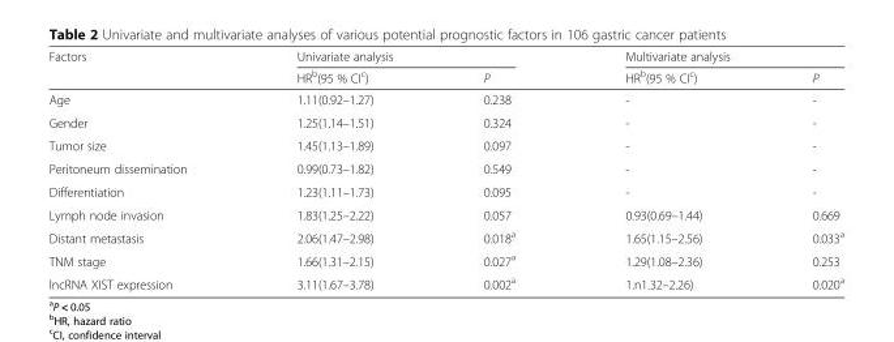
<table><thead><tr><td rowspan="2">Factors</td><td colspan="2">Univariate analysis</td><td colspan="2">Multivariate analysis</td></tr><tr><td>HR<sup>b</sup>(95 % CI<sup>c</sup>)</td><td>P</td><td>HR<sup>b</sup>(95 % CI<sup>c</sup>)</td><td>P</td></tr></thead><tbody><tr><td>Age</td><td>1.11(0.92–1.27)</td><td>0.238</td><td>-</td><td>-</td></tr><tr><td>Gender</td><td>1.25(1.14–1.51)</td><td>0.324</td><td>-</td><td>-</td></tr><tr><td>Tumor size</td><td>1.45(1.13–1.89)</td><td>0.097</td><td>-</td><td>-</td></tr><tr><td>Peritoneum dissemination</td><td>0.99(0.73–1.82)</td><td>0.549</td><td>-</td><td>-</td></tr><tr><td>Differentiation</td><td>1.23(1.11–1.73)</td><td>0.095</td><td>-</td><td>-</td></tr><tr><td>Lymph node invasion</td><td>1.83(1.25–2.22)</td><td>0.057</td><td>0.93(0.69–1.44)</td><td>0.669</td></tr><tr><td>Distant metastasis</td><td>2.06(1.47–2.98)</td><td>0.018<sup>a</sup></td><td>1.65(1.15–2.56)</td><td>0.033<sup>a</sup></td></tr><tr><td>TNM stage</td><td>1.66(1.31–2.15)</td><td>0.027<sup>a</sup></td><td>1.29(1.08–2.36)</td><td>0.253</td></tr><tr><td>lncRNA XIST expression</td><td>3.11(1.67–3.78)</td><td>0.002<sup>a</sup></td><td>1.n1.32–2.26)</td><td>0.020<sup>a</sup></td></tr></tbody></table>